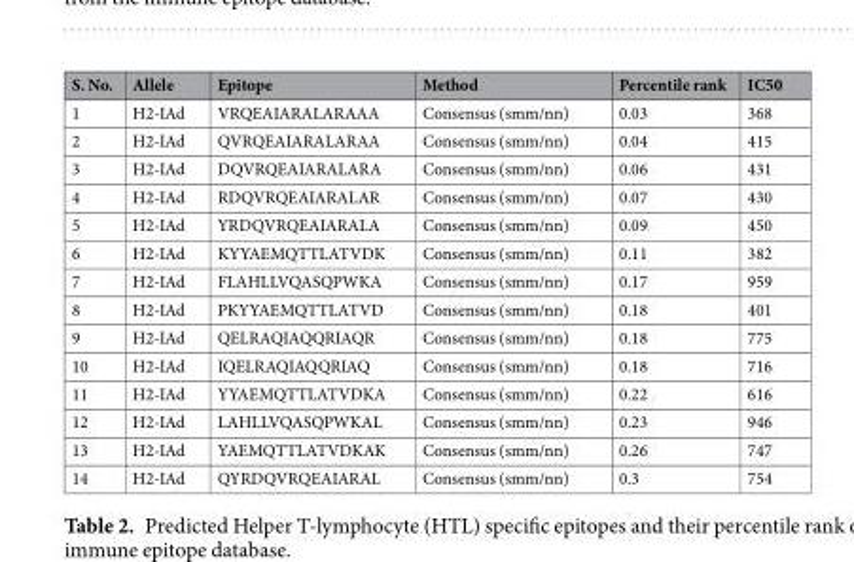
<table><thead><tr><td>S. No.</td><td>Allele</td><td>Epitope</td><td>Method</td><td>Percentile rank</td><td>IC50</td></tr></thead><tbody><tr><td>1</td><td>H2-IAd</td><td>VRQEAIARALARAAA</td><td>Consensus (smm/nn)</td><td>0.03</td><td>368</td></tr><tr><td>2</td><td>H2-IAd</td><td>QVRQEAIARALARAA</td><td>Consensus (smm/nn)</td><td>0.04</td><td>415</td></tr><tr><td>3</td><td>H2-IAd</td><td>DQVRQEAIARALARA</td><td>Consensus (smm/nn)</td><td>0.06</td><td>431</td></tr><tr><td>4</td><td>H2-IAd</td><td>RDQVRQEAIARALAR</td><td>Consensus (smm/nn)</td><td>0.07</td><td>430</td></tr><tr><td>5</td><td>H2-IAd</td><td>YRDQVRQEAIARALA</td><td>Consensus (smm/nn)</td><td>0.09</td><td>450</td></tr><tr><td>6</td><td>H2-IAd</td><td>KYYAEMQTTLATVDK</td><td>Consensus (smm/nn)</td><td>0.11</td><td>382</td></tr><tr><td>7</td><td>H2-IAd</td><td>FLAHLLVQASQPWKA</td><td>Consensus (smm/nn)</td><td>0.17</td><td>959</td></tr><tr><td>8</td><td>H2-IAd</td><td>PKYYAEMQTTLATVD</td><td>Consensus (smm/nn)</td><td>0.18</td><td>401</td></tr><tr><td>9</td><td>H2-IAd</td><td>QELRAQIAQQRIAQR</td><td>Consensus (smm/nn)</td><td>0.18</td><td>775</td></tr><tr><td>10</td><td>H2-IAd</td><td>IQELRAQIAQQRIAQ</td><td>Consensus (smm/nn)</td><td>0.18</td><td>716</td></tr><tr><td>11</td><td>H2-IAd</td><td>YYAEMQTTLATVDKA</td><td>Consensus (smm/nn)</td><td>0.22</td><td>616</td></tr><tr><td>12</td><td>H2-IAd</td><td>LAHLLVQASQPWKAL</td><td>Consensus (smm/nn)</td><td>0.23</td><td>946</td></tr><tr><td>13</td><td>H2-IAd</td><td>YAEMQTTLATVDKAK</td><td>Consensus (smm/nn)</td><td>0.26</td><td>747</td></tr><tr><td>14</td><td>H2-IAd</td><td>QYRDQVRQEAIARAL</td><td>Consensus (smm/nn)</td><td>0.3</td><td>754</td></tr></tbody></table>